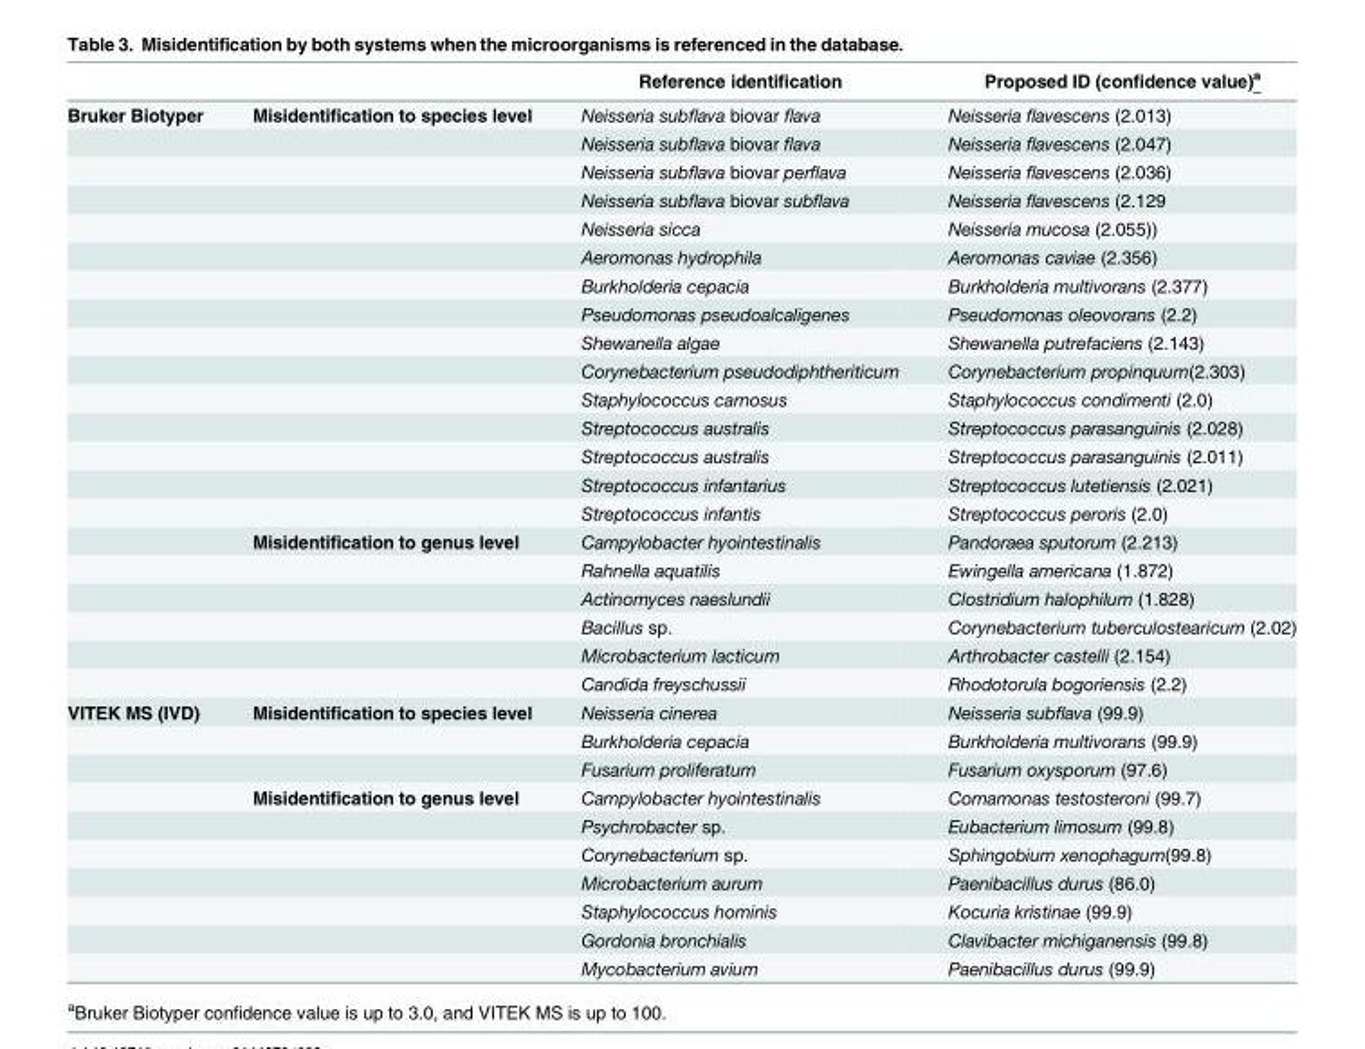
<table><thead><tr><td></td><td></td><td>Reference identification</td><td>Proposed ID (confidence value)<sup>a</sup></td></tr></thead><tbody><tr><td rowspan="21">Bruker Biotyper</td><td>Misidentification to species level</td><td>Neisseria subflava biovar flava</td><td>Neisseria flavescens (2.013)</td></tr><tr><td></td><td>Neisseria subflava biovar flava</td><td>Neisseria flavescens (2.047)</td></tr><tr><td></td><td>Neisseria subflava biovar perflava</td><td>Neisseria flavescens (2.036)</td></tr><tr><td></td><td>Neisseria subflava biovar subflava</td><td>Neisseria flavescens (2.129</td></tr><tr><td></td><td>Neisseria sicca</td><td>Neisseria mucosa (2.055))</td></tr><tr><td></td><td>Aeromonas hydrophila</td><td>Aeromonas caviae (2.356)</td></tr><tr><td></td><td>Burkholderia cepacia</td><td>Burkholderia multivorans (2.377)</td></tr><tr><td></td><td>Pseudomonas pseudoalcaligenes</td><td>Pseudomonas oleovorans (2.2)</td></tr><tr><td></td><td>Shewanella algae</td><td>Shewanella putrefaciens (2.143)</td></tr><tr><td></td><td>Corynebacterium pseudodiphtheriticum</td><td>Corynebacterium propinquum(2.303)</td></tr><tr><td></td><td>Staphylococcus carnosus</td><td>Staphylococcus condimenti (2.0)</td></tr><tr><td></td><td>Streptococcus australis</td><td>Streptococcus parasanguinis (2.028)</td></tr><tr><td></td><td>Streptococcus australis</td><td>Streptococcus parasanguinis (2.011)</td></tr><tr><td></td><td>Streptococcus infantarius</td><td>Streptococcus lutetiensis (2.021)</td></tr><tr><td></td><td>Streptococcus infantis</td><td>Streptococcus peroris (2.0)</td></tr><tr><td>Misidentification to genus level</td><td>Campylobacter hyointestinalis</td><td>Pandoraea sputorum (2.213)</td></tr><tr><td></td><td>Rahnella aquatilis</td><td>Ewingella americana (1.872)</td></tr><tr><td></td><td>Actinomyces naeslundii</td><td>Clostridium halophilum (1.828)</td></tr><tr><td></td><td>Bacillus sp.</td><td>Corynebacterium tuberculostearicum (2.02)</td></tr><tr><td></td><td>Microbacterium lacticum</td><td>Arthrobacter castelli (2.154)</td></tr><tr><td></td><td>Candida freyschussii</td><td>Rhodotorula bogoriensis (2.2)</td></tr><tr><td rowspan="10">VITEK MS (IVD)</td><td>Misidentification to species level</td><td>Neisseria cinerea</td><td>Neisseria subflava (99.9)</td></tr><tr><td></td><td>Burkholderia cepacia</td><td>Burkholderia multivorans (99.9)</td></tr><tr><td></td><td>Fusarium proliferatum</td><td>Fusarium oxysporum (97.6)</td></tr><tr><td>Misidentification to genus level</td><td>Campylobacter hyointestinalis</td><td>Comamonas testosteroni (99.7)</td></tr><tr><td></td><td>Psychrobacter sp.</td><td>Eubacterium limosum (99.8)</td></tr><tr><td></td><td>Corynebacterium sp.</td><td>Sphingobium xenophagum(99.8)</td></tr><tr><td></td><td>Microbacterium aurum</td><td>Paenibacillus durus (86.0)</td></tr><tr><td></td><td>Staphylococcus hominis</td><td>Kocuria kristinae (99.9)</td></tr><tr><td></td><td>Gordonia bronchialis</td><td>Clavibacter michiganensis (99.8)</td></tr><tr><td></td><td>Mycobacterium avium</td><td>Paenibacillus durus (99.9)</td></tr></tbody></table>